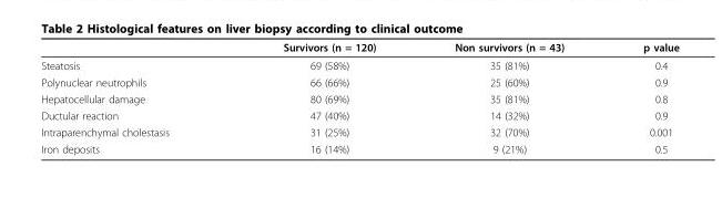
<table><thead><tr><td></td><td>Survivors (n = 120)</td><td>Non survivors (n = 43)</td><td>p value</td></tr></thead><tbody><tr><td>Steatosis</td><td>69 (58%)</td><td>35 (81%)</td><td>0.4</td></tr><tr><td>Polynuclear neutrophils</td><td>66 (66%)</td><td>25 (60%)</td><td>0.9</td></tr><tr><td>Hepatocellular damage</td><td>80 (69%)</td><td>35 (81%)</td><td>0.8</td></tr><tr><td>Ductular reaction</td><td>47 (40%)</td><td>14 (32%)</td><td>0.9</td></tr><tr><td>Intraparenchymal cholestasis</td><td>31 (25%)</td><td>32 (70%)</td><td>0.001</td></tr><tr><td>Iron deposits</td><td>16 (14%)</td><td>9 (21%)</td><td>0.5</td></tr></tbody></table>